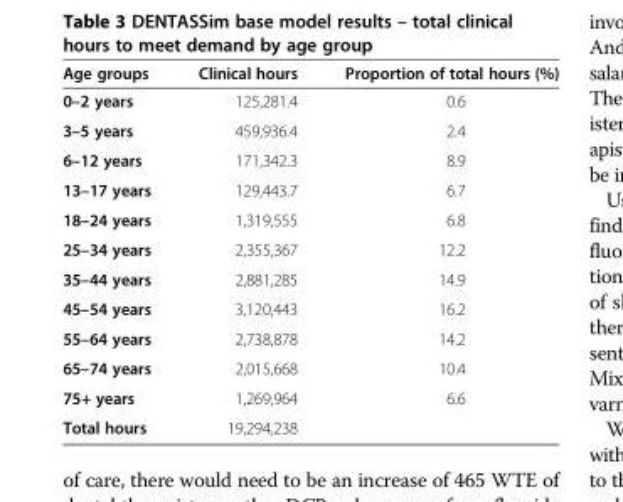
<table><thead><tr><td>Age groups</td><td>Clinical hours</td><td>Proportion of total hours (%)</td></tr></thead><tbody><tr><td>0–2 years</td><td>125,281.4</td><td>0.6</td></tr><tr><td>3–5 years</td><td>459,936.4</td><td>2.4</td></tr><tr><td>6–12 years</td><td>171,342.3</td><td>8.9</td></tr><tr><td>13–17 years</td><td>129,443.7</td><td>6.7</td></tr><tr><td>18–24 years</td><td>1,319,555</td><td>6.8</td></tr><tr><td>25–34 years</td><td>2,355,367</td><td>12.2</td></tr><tr><td>35–44 years</td><td>2,881,285</td><td>14.9</td></tr><tr><td>45–54 years</td><td>3,120,443</td><td>16.2</td></tr><tr><td>55–64 years</td><td>2,738,878</td><td>14.2</td></tr><tr><td>65–74 years</td><td>2,015,668</td><td>10.4</td></tr><tr><td>75+ years</td><td>1,269,964</td><td>6.6</td></tr><tr><td>Total hours</td><td>19,294,238</td><td></td></tr></tbody></table>